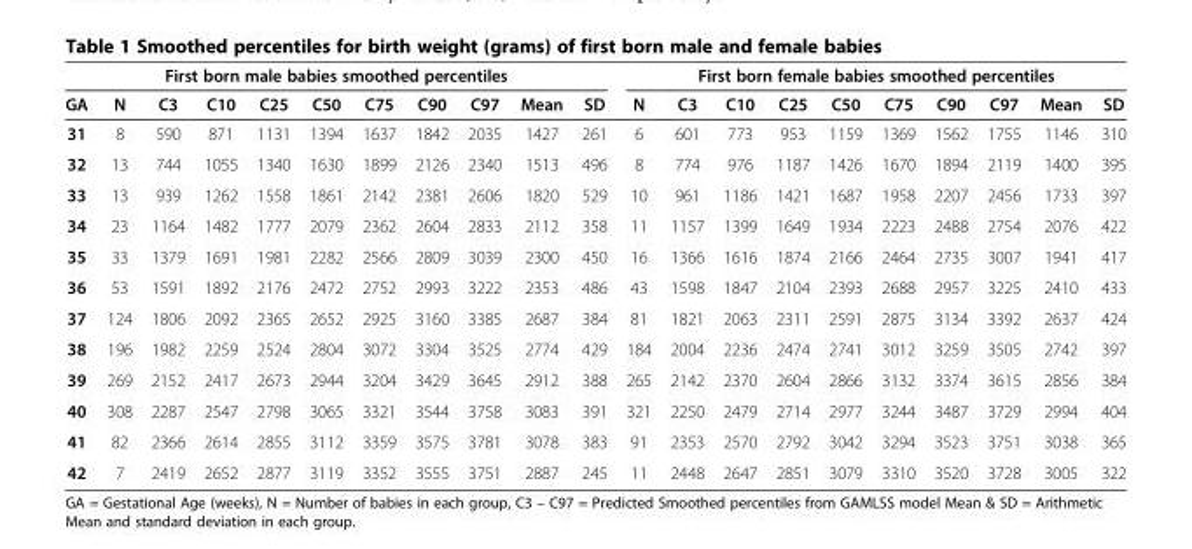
<table><thead><tr><td colspan="11">First born male babies smoothed percentiles</td><td colspan="10">First born female babies smoothed percentiles</td></tr><tr><td>GA</td><td>N</td><td>C3</td><td>C10</td><td>C25</td><td>C50</td><td>C75</td><td>C90</td><td>C97</td><td>Mean</td><td>SD</td><td>N</td><td>C3</td><td>C10</td><td>C25</td><td>C50</td><td>C75</td><td>C90</td><td>C97</td><td>Mean</td><td>SD</td></tr></thead><tbody><tr><td>31</td><td>8</td><td>590</td><td>871</td><td>1131</td><td>1394</td><td>1637</td><td>1842</td><td>2035</td><td>1427</td><td>261</td><td>6</td><td>601</td><td>773</td><td>953</td><td>1159</td><td>1369</td><td>1562</td><td>1755</td><td>1146</td><td>310</td></tr><tr><td>32</td><td>13</td><td>744</td><td>1055</td><td>1340</td><td>1630</td><td>1899</td><td>2126</td><td>2340</td><td>1513</td><td>496</td><td>8</td><td>774</td><td>976</td><td>1187</td><td>1426</td><td>1670</td><td>1894</td><td>2119</td><td>1400</td><td>395</td></tr><tr><td>33</td><td>13</td><td>939</td><td>1262</td><td>1558</td><td>1861</td><td>2142</td><td>2381</td><td>2606</td><td>1820</td><td>529</td><td>10</td><td>961</td><td>1186</td><td>1421</td><td>1687</td><td>1958</td><td>2207</td><td>2456</td><td>1733</td><td>397</td></tr><tr><td>34</td><td>23</td><td>1164</td><td>1482</td><td>1777</td><td>2079</td><td>2362</td><td>2604</td><td>2833</td><td>2112</td><td>358</td><td>11</td><td>1157</td><td>1399</td><td>1649</td><td>1934</td><td>2223</td><td>2488</td><td>2754</td><td>2076</td><td>422</td></tr><tr><td>35</td><td>33</td><td>1379</td><td>1691</td><td>1981</td><td>2282</td><td>2566</td><td>2809</td><td>3039</td><td>2300</td><td>450</td><td>16</td><td>1366</td><td>1616</td><td>1874</td><td>2166</td><td>2464</td><td>2735</td><td>3007</td><td>1941</td><td>417</td></tr><tr><td>36</td><td>53</td><td>1591</td><td>1892</td><td>2176</td><td>2472</td><td>2752</td><td>2993</td><td>3222</td><td>2353</td><td>486</td><td>43</td><td>1598</td><td>1847</td><td>2104</td><td>2393</td><td>2688</td><td>2957</td><td>3225</td><td>2410</td><td>433</td></tr><tr><td>37</td><td>124</td><td>1806</td><td>2092</td><td>2365</td><td>2652</td><td>2925</td><td>3160</td><td>3385</td><td>2687</td><td>384</td><td>81</td><td>1821</td><td>2063</td><td>2311</td><td>2591</td><td>2875</td><td>3134</td><td>3392</td><td>2637</td><td>424</td></tr><tr><td>38</td><td>196</td><td>1982</td><td>2259</td><td>2524</td><td>2804</td><td>3072</td><td>3304</td><td>3525</td><td>2774</td><td>429</td><td>184</td><td>2004</td><td>2236</td><td>2474</td><td>2741</td><td>3012</td><td>3259</td><td>3505</td><td>2742</td><td>397</td></tr><tr><td>39</td><td>269</td><td>2152</td><td>2417</td><td>2673</td><td>2944</td><td>3204</td><td>3429</td><td>3645</td><td>2912</td><td>388</td><td>265</td><td>2142</td><td>2370</td><td>2604</td><td>2866</td><td>3132</td><td>3374</td><td>3615</td><td>2856</td><td>384</td></tr><tr><td>40</td><td>308</td><td>2287</td><td>2547</td><td>2798</td><td>3065</td><td>3321</td><td>3544</td><td>3758</td><td>3083</td><td>391</td><td>321</td><td>2250</td><td>2479</td><td>2714</td><td>2977</td><td>3244</td><td>3487</td><td>3729</td><td>2994</td><td>404</td></tr><tr><td>41</td><td>82</td><td>2366</td><td>2614</td><td>2855</td><td>3112</td><td>3359</td><td>3575</td><td>3781</td><td>3078</td><td>383</td><td>91</td><td>2353</td><td>2570</td><td>2792</td><td>3042</td><td>3294</td><td>3523</td><td>3751</td><td>3038</td><td>365</td></tr><tr><td>42</td><td>7</td><td>2419</td><td>2652</td><td>2877</td><td>3119</td><td>3352</td><td>3555</td><td>3751</td><td>2887</td><td>245</td><td>11</td><td>2448</td><td>2647</td><td>2851</td><td>3079</td><td>3310</td><td>3520</td><td>3728</td><td>3005</td><td>322</td></tr></tbody></table>